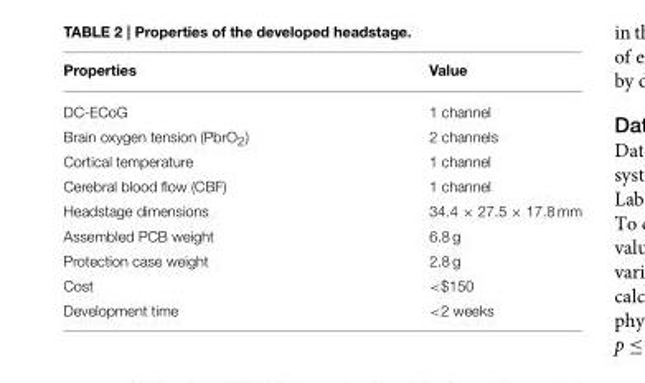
<table><thead><tr><td>Properties</td><td>Value</td></tr></thead><tbody><tr><td>DC-ECoG</td><td>1 channel</td></tr><tr><td>Brain oxygen tension (PbrO<sub>2</sub>)</td><td>2 channels</td></tr><tr><td>Cortical temperature</td><td>1 channel</td></tr><tr><td>Cerebral blood flow (CBF)</td><td>1 channel</td></tr><tr><td>Headstage dimensions</td><td>34.4 × 27.5 × 17.8 mm</td></tr><tr><td>Assembled PCB weight</td><td>6.8 g</td></tr><tr><td>Protection case weight</td><td>2.8 g</td></tr><tr><td>Cost</td><td>&lt;$150</td></tr><tr><td>Development time</td><td>&lt;2 weeks</td></tr></tbody></table>